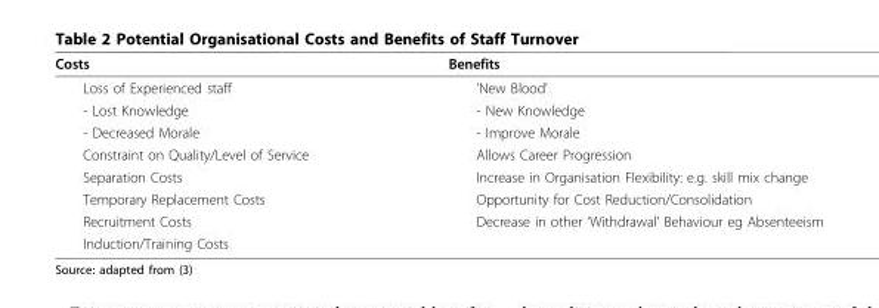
<table><thead><tr><td>Costs</td><td>Benefits</td></tr></thead><tbody><tr><td>Loss of Experienced staff</td><td>’New Blood’</td></tr><tr><td>- Lost Knowledge</td><td>- New Knowledge</td></tr><tr><td>- Decreased Morale</td><td>- Improve Morale</td></tr><tr><td>Constraint on Quality/Level of Service</td><td>Allows Career Progression</td></tr><tr><td>Separation Costs</td><td>Increase in Organisation Flexibility: e.g. skill mix change</td></tr><tr><td>Temporary Replacement Costs</td><td>Opportunity for Cost Reduction/Consolidation</td></tr><tr><td>Recruitment Costs</td><td>Decrease in other ‘Withdrawal’ Behaviour eg Absenteeism</td></tr><tr><td>Induction/Training Costs</td><td></td></tr></tbody></table>